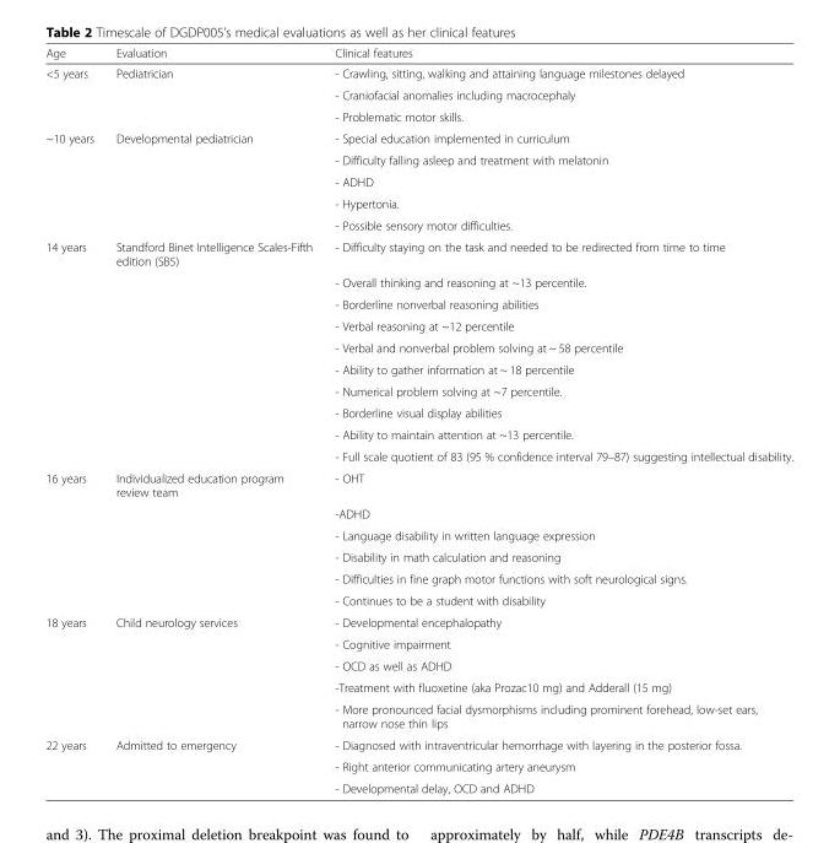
<table><thead><tr><td>Age</td><td>Evaluation</td><td>Clinical features</td></tr></thead><tbody><tr><td rowspan="3">&lt;5 years</td><td>Pediatrician</td><td>- Crawling, sitting, walking and attaining language milestones delayed</td></tr><tr><td></td><td>- Craniofacial anomalies including macrocephaly</td></tr><tr><td></td><td>- Problematic motor skills.</td></tr><tr><td rowspan="5">~10 years</td><td>Developmental pediatrician</td><td>- Special education implemented in curriculum</td></tr><tr><td></td><td>- Difficulty falling asleep and treatment with melatonin</td></tr><tr><td></td><td>- ADHD</td></tr><tr><td></td><td>- Hypertonia.</td></tr><tr><td></td><td>- Possible sensory motor difficulties.</td></tr><tr><td rowspan="10">14 years</td><td>Standford Binet Intelligence Scales-Fifth edition (SB5)</td><td>- Difficulty staying on the task and needed to be redirected from time to time</td></tr><tr><td></td><td>- Overall thinking and reasoning at ~13 percentile.</td></tr><tr><td></td><td>- Borderline nonverbal reasoning abilities</td></tr><tr><td></td><td>- Verbal reasoning at ~12 percentile</td></tr><tr><td></td><td>- Verbal and nonverbal problem solving at ~ 58 percentile</td></tr><tr><td></td><td>- Ability to gather information at ~ 18 percentile</td></tr><tr><td></td><td>- Numerical problem solving at ~7 percentile.</td></tr><tr><td></td><td>- Borderline visual display abilities</td></tr><tr><td></td><td>- Ability to maintain attention at ~13 percentile.</td></tr><tr><td></td><td>- Full scale quotient of 83 (95 % confidence interval 79–87) suggesting intellectual disability.</td></tr><tr><td rowspan="6">16 years</td><td>Individualized education program review team</td><td>- OHT</td></tr><tr><td></td><td>-ADHD</td></tr><tr><td></td><td>- Language disability in written language expression</td></tr><tr><td></td><td>- Disability in math calculation and reasoning</td></tr><tr><td></td><td>- Difficulties in fine graph motor functions with soft neurological signs.</td></tr><tr><td></td><td>- Continues to be a student with disability</td></tr><tr><td rowspan="5">18 years</td><td>Child neurology services</td><td>- Developmental encephalopathy</td></tr><tr><td></td><td>- Cognitive impairment</td></tr><tr><td></td><td>- OCD as well as ADHD</td></tr><tr><td></td><td>-Treatment with fluoxetine (aka Prozac10 mg) and Adderall (15 mg)</td></tr><tr><td></td><td>- More pronounced facial dysmorphisms including prominent forehead, low-set ears, narrow nose thin lips</td></tr><tr><td rowspan="3">22 years</td><td>Admitted to emergency</td><td>- Diagnosed with intraventricular hemorrhage with layering in the posterior fossa.</td></tr><tr><td></td><td>- Right anterior communicating artery aneurysm</td></tr><tr><td></td><td>- Developmental delay, OCD and ADHD</td></tr></tbody></table>